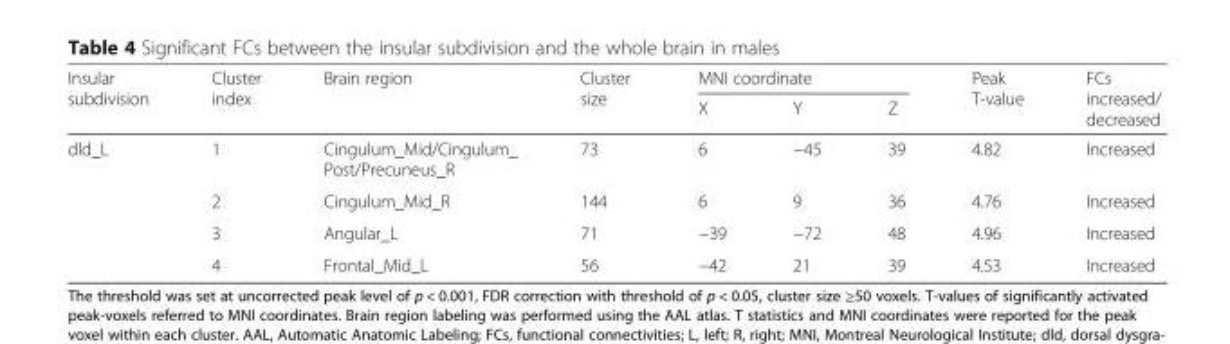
<table><thead><tr><td rowspan="2">Insular subdivision</td><td rowspan="2">Cluster index</td><td rowspan="2">Brain region</td><td rowspan="2">Cluster size</td><td colspan="3">MNI coordinate</td><td rowspan="2">Peak T-value</td><td rowspan="2">FCs increased/ decreased</td></tr><tr><td>X</td><td>Y</td><td>Z</td></tr></thead><tbody><tr><td rowspan="4">dld_L</td><td>1</td><td>Cingulum_Mid/Cingulum_ Post/Precuneus_R</td><td>73</td><td>6</td><td>−45</td><td>39</td><td>4.82</td><td>Increased</td></tr><tr><td>2</td><td>Cingulum_Mid_R</td><td>144</td><td>6</td><td>9</td><td>36</td><td>4.76</td><td>Increased</td></tr><tr><td>3</td><td>Angular_L</td><td>71</td><td>−39</td><td>−72</td><td>48</td><td>4.96</td><td>Increased</td></tr><tr><td>4</td><td>Frontal_Mid_L</td><td>56</td><td>−42</td><td>21</td><td>39</td><td>4.53</td><td>Increased</td></tr></tbody></table>